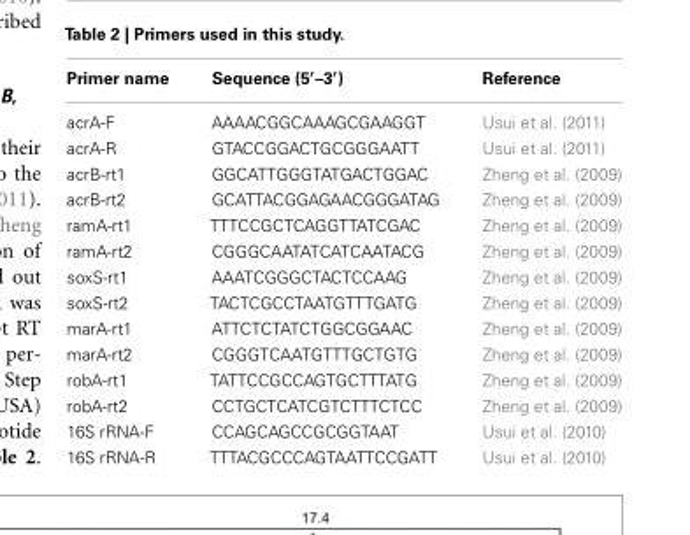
<table><thead><tr><td>Primer name</td><td>Sequence (5′–3′)</td><td>Reference</td></tr></thead><tbody><tr><td>acrA-F</td><td>AAAACGGCAAAGCGAAGGT</td><td>Usui et al. (2011)</td></tr><tr><td>acrA-R</td><td>GTACCGGACTGCGGGAATT</td><td>Usui et al. (2011)</td></tr><tr><td>acrB-rt1</td><td>GGCATTGGGTATGACTGGAC</td><td>Zheng et al. (2009)</td></tr><tr><td>acrB-rt2</td><td>GCATTACGGAGAACGGGATAG</td><td>Zheng et al. (2009)</td></tr><tr><td>ramA-rt1</td><td>TTTCCGCTCAGGTTATCGAC</td><td>Zheng et al. (2009)</td></tr><tr><td>ramA-rt2</td><td>CGGGCAATATCATCAATACG</td><td>Zheng et al. (2009)</td></tr><tr><td>soxS-rt1</td><td>AAATCGGGCTACTCCAAG</td><td>Zheng et al. (2009)</td></tr><tr><td>soxS-rt2</td><td>TACTCGCCTAATGTTTGATG</td><td>Zheng et al. (2009)</td></tr><tr><td>marA-rt1</td><td>ATTCTCTATCTGGCGGAAC</td><td>Zheng et al. (2009)</td></tr><tr><td>marA-rt2</td><td>CGGGTCAATGTTTGCTGTG</td><td>Zheng et al. (2009)</td></tr><tr><td>robA-rt1</td><td>TATTCCGCCAGTGCTTTATG</td><td>Zheng et al. (2009)</td></tr><tr><td>robA-rt2</td><td>CCTGCTCATCGTCTTTCTCC</td><td>Zheng et al. (2009)</td></tr><tr><td>16S rRNA-F</td><td>CCAGCAGCCGCGGTAAT</td><td>Usui et al. (2010)</td></tr><tr><td>16S rRNA-R</td><td>TTTACGCCCAGTAATTCCGATT</td><td>Usui et al. (2010)</td></tr></tbody></table>